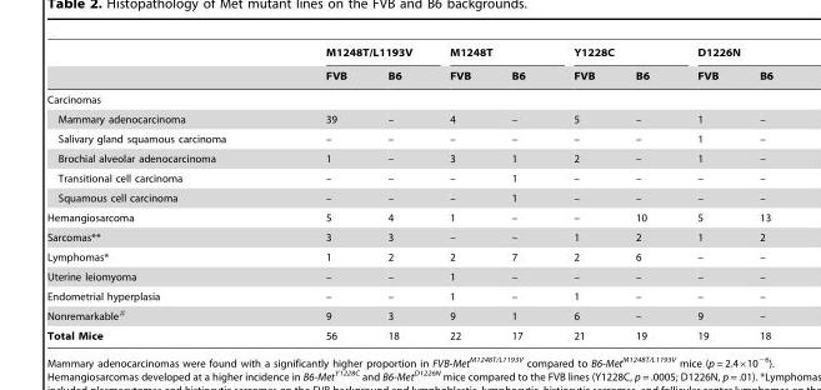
<table><thead><tr><td rowspan="2"></td><td colspan="2">M1248T/L1193V</td><td colspan="2">M1248T</td><td colspan="2">Y1228C</td><td colspan="2">D1226N</td></tr><tr><td>FVB</td><td>B6</td><td>FVB</td><td>B6</td><td>FVB</td><td>B6</td><td>FVB</td><td>B6</td></tr></thead><tbody><tr><td colspan="9">Carcinomas</td></tr><tr><td>Mammary adenocarcinoma</td><td>39</td><td>–</td><td>4</td><td>–</td><td>5</td><td>–</td><td>1</td><td>–</td></tr><tr><td>Salivary gland squamous carcinoma</td><td>–</td><td>–</td><td>–</td><td>–</td><td>–</td><td>–</td><td>1</td><td>–</td></tr><tr><td>Brochial alveolar adenocarcinoma</td><td>1</td><td>–</td><td>3</td><td>1</td><td>2</td><td>–</td><td>1</td><td>–</td></tr><tr><td>Transitional cell carcinoma</td><td>–</td><td>–</td><td>–</td><td>1</td><td>–</td><td>–</td><td>–</td><td>–</td></tr><tr><td>Squamous cell carcinoma</td><td>–</td><td>–</td><td>–</td><td>1</td><td>–</td><td>–</td><td>–</td><td>–</td></tr><tr><td>Hemangiosarcoma</td><td>5</td><td>4</td><td>1</td><td>–</td><td>–</td><td>10</td><td>5</td><td>13</td></tr><tr><td>Sarcomas**</td><td>3</td><td>3</td><td>–</td><td>–</td><td>1</td><td>2</td><td>1</td><td>2</td></tr><tr><td>Lymphomas*</td><td>1</td><td>2</td><td>2</td><td>7</td><td>2</td><td>6</td><td>–</td><td>–</td></tr><tr><td>Uterine leiomyoma</td><td>–</td><td>–</td><td>1</td><td>–</td><td>–</td><td>–</td><td>–</td><td>–</td></tr><tr><td>Endometrial hyperplasia</td><td>–</td><td>–</td><td>1</td><td>–</td><td>1</td><td>–</td><td>–</td><td>–</td></tr><tr><td>Nonremarkable#</td><td>9</td><td>3</td><td>9</td><td>1</td><td>6</td><td>–</td><td>9</td><td>–</td></tr><tr><td>Total Mice</td><td>56</td><td>18</td><td>22</td><td>17</td><td>21</td><td>19</td><td>19</td><td>18</td></tr></tbody></table>